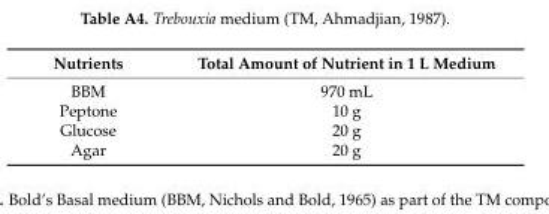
<table><thead><tr><td>Nutrients</td><td>Total Amount of Nutrient in 1 L Medium</td></tr></thead><tbody><tr><td>BBM</td><td>970 mL</td></tr><tr><td>Peptone</td><td>10 g</td></tr><tr><td>Glucose</td><td>20 g</td></tr><tr><td>Agar</td><td>20 g</td></tr></tbody></table>